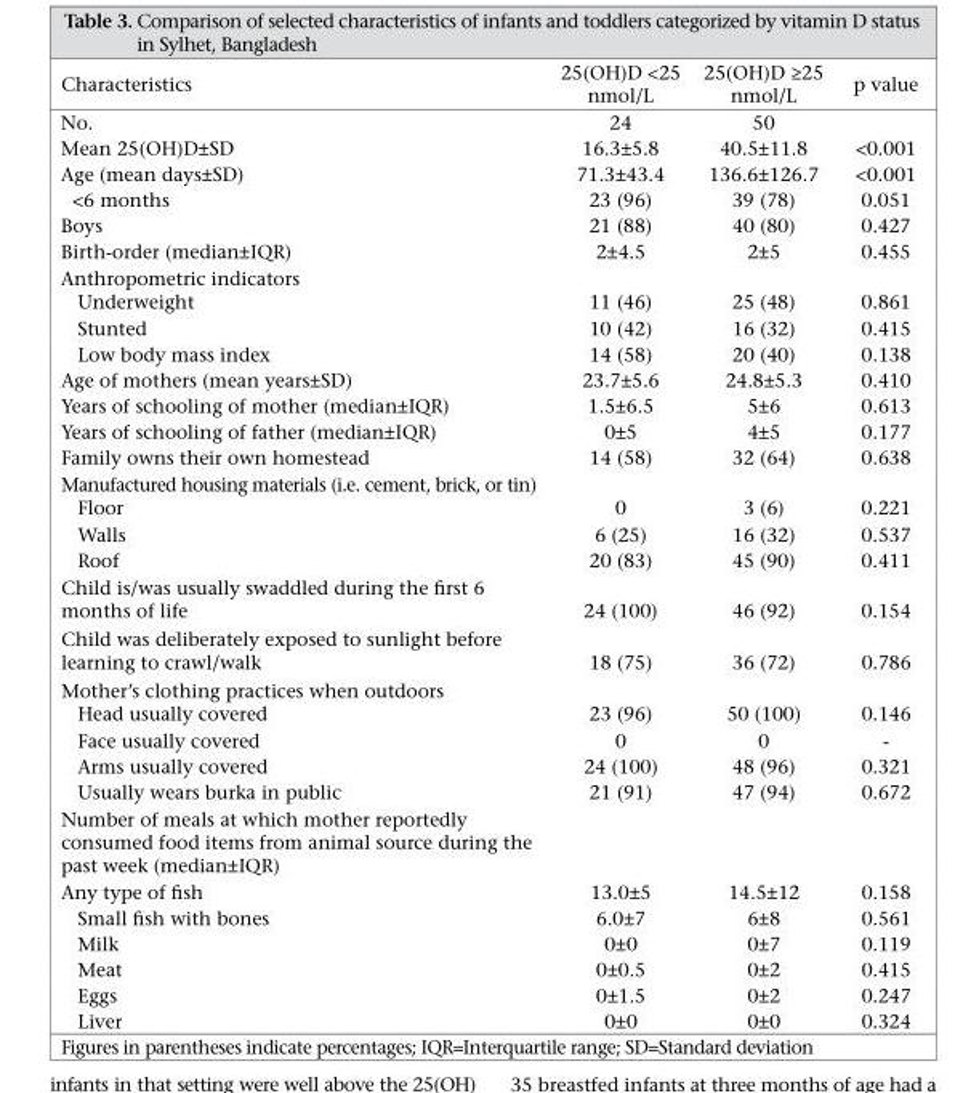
<table><thead><tr><td>Characteristics</td><td>25(OH)D &lt;25 nmol/L</td><td>25(OH)D ≥25 nmol/L</td><td>p value</td></tr></thead><tbody><tr><td>No.</td><td>24</td><td>50</td><td></td></tr><tr><td>Mean 25(OH)D±SD</td><td>16.3±5.8</td><td>40.5±11.8</td><td>&lt;0.001</td></tr><tr><td>Age (mean days±SD)</td><td>71.3±43.4</td><td>136.6±126.7</td><td>&lt;0.001</td></tr><tr><td>&lt;6 months</td><td>23 (96)</td><td>39 (78)</td><td>0.051</td></tr><tr><td>Boys</td><td>21 (88)</td><td>40 (80)</td><td>0.427</td></tr><tr><td>Birth-order (median±IQR)</td><td>2±4.5</td><td>2±5</td><td>0.455</td></tr><tr><td colspan="4">Anthropometric indicators</td></tr><tr><td>Underweight</td><td>11 (46)</td><td>25 (48)</td><td>0.861</td></tr><tr><td>Stunted</td><td>10 (42)</td><td>16 (32)</td><td>0.415</td></tr><tr><td>Low body mass index</td><td>14 (58)</td><td>20 (40)</td><td>0.138</td></tr><tr><td>Age of mothers (mean years±SD)</td><td>23.7±5.6</td><td>24.8±5.3</td><td>0.410</td></tr><tr><td>Years of schooling of mother (median±IQR)</td><td>1.5±6.5</td><td>5±6</td><td>0.613</td></tr><tr><td>Years of schooling of father (median±IQR)</td><td>0±5</td><td>4±5</td><td>0.177</td></tr><tr><td>Family owns their own homestead</td><td>14 (58)</td><td>32 (64)</td><td>0.638</td></tr><tr><td colspan="4">Manufactured housing materials (i.e. cement, brick, or tin)</td></tr><tr><td>Floor</td><td>0</td><td>3 (6)</td><td>0.221</td></tr><tr><td>Walls</td><td>6 (25)</td><td>16 (32)</td><td>0.537</td></tr><tr><td>Roof</td><td>20 (83)</td><td>45 (90)</td><td>0.411</td></tr><tr><td>Child is/was usually swaddled during the first 6 months of life</td><td>24 (100)</td><td>46 (92)</td><td>0.154</td></tr><tr><td>Child was deliberately exposed to sunlight before learning to crawl/walk</td><td>18 (75)</td><td>36 (72)</td><td>0.786</td></tr><tr><td colspan="4">Mother’s clothing practices when outdoors</td></tr><tr><td>Head usually covered</td><td>23 (96)</td><td>50 (100)</td><td>0.146</td></tr><tr><td>Face usually covered</td><td>0</td><td>0</td><td>-</td></tr><tr><td>Arms usually covered</td><td>24 (100)</td><td>48 (96)</td><td>0.321</td></tr><tr><td>Usually wears burka in public</td><td>21 (91)</td><td>47 (94)</td><td>0.672</td></tr><tr><td colspan="4">Number of meals at which mother reportedly consumed food items from animal source during the past week (median±IQR)</td></tr><tr><td>Any type of fish</td><td>13.0±5</td><td>14.5±12</td><td>0.158</td></tr><tr><td>Small fish with bones</td><td>6.0±7</td><td>6±8</td><td>0.561</td></tr><tr><td>Milk</td><td>0±0</td><td>0±7</td><td>0.119</td></tr><tr><td>Meat</td><td>0±0.5</td><td>0±2</td><td>0.415</td></tr><tr><td>Eggs</td><td>0±1.5</td><td>0±2</td><td>0.247</td></tr><tr><td>Liver</td><td>0±0</td><td>0±0</td><td>0.324</td></tr></tbody></table>